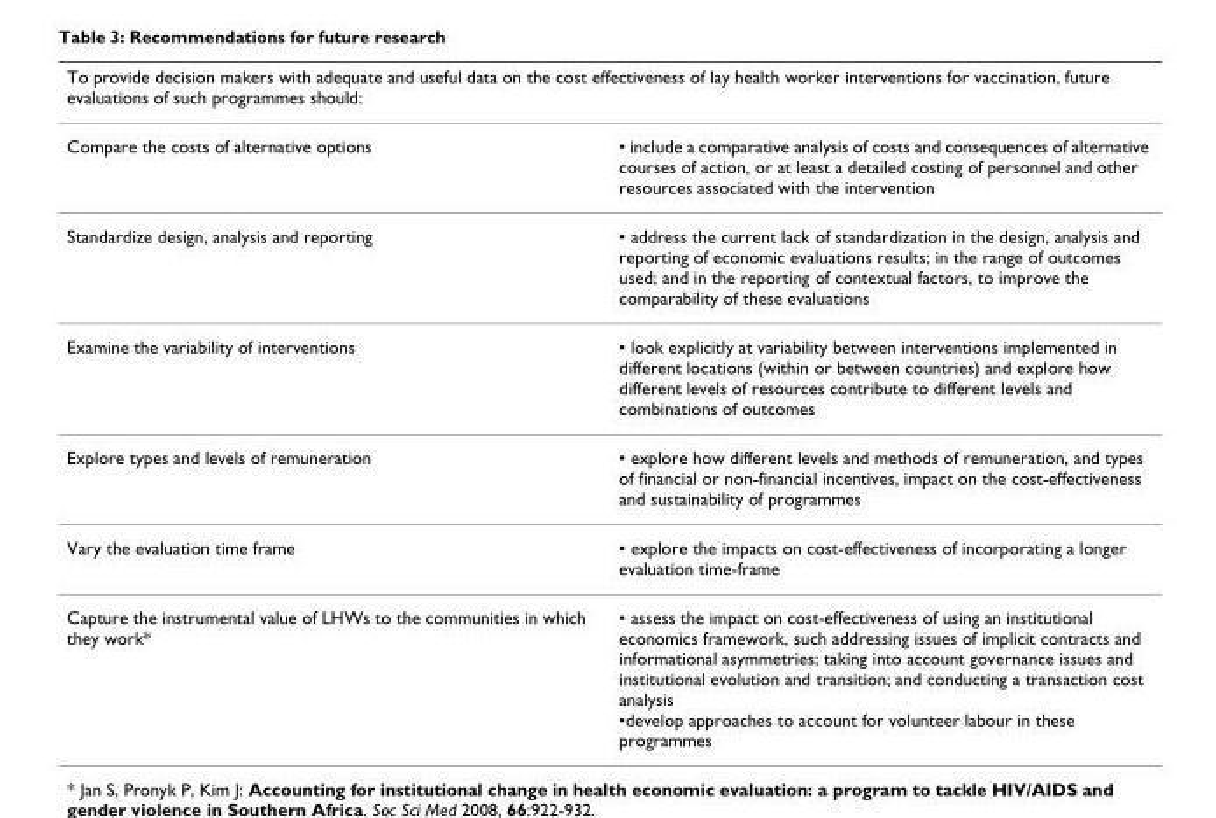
<table><thead><tr><td colspan="2">To provide decision makers with adequate and useful data on the cost effectiveness of lay health worker interventions for vaccination, future evaluations of such programmes should:</td></tr><tr><td>Compare the costs of alternative options</td><td>• include a comparative analysis of costs and consequences of alternative courses of action, or at least a detailed costing of personnel and other resources associated with the intervention</td></tr></thead><tbody><tr><td>Standardize design, analysis and reporting</td><td>• address the current lack of standardization in the design, analysis and reporting of economic evaluations results; in the range of outcomes used; and in the reporting of contextual factors, to improve the comparability of these evaluations</td></tr><tr><td>Examine the variability of interventions</td><td>• look explicitly at variability between interventions implemented in different locations (within or between countries) and explore how different levels of resources contribute to different levels and combinations of outcomes</td></tr><tr><td>Explore types and levels of remuneration</td><td>• explore how different levels and methods of remuneration, and types of financial or non-financial incentives, impact on the cost-effectiveness and sustainability of programmes</td></tr><tr><td>Vary the evaluation time frame</td><td>• explore the impacts on cost-effectiveness of incorporating a longer evaluation time-frame</td></tr><tr><td>Capture the instrumental value of LHWs to the communities in which they work*</td><td>• assess the impact on cost-effectiveness of using an institutional economics framework, such addressing issues of implicit contracts and informational asymmetries; taking into account governance issues and institutional evolution and transition; and conducting a transaction cost analysis •develop approaches to account for volunteer labour in these programmes</td></tr></tbody></table>